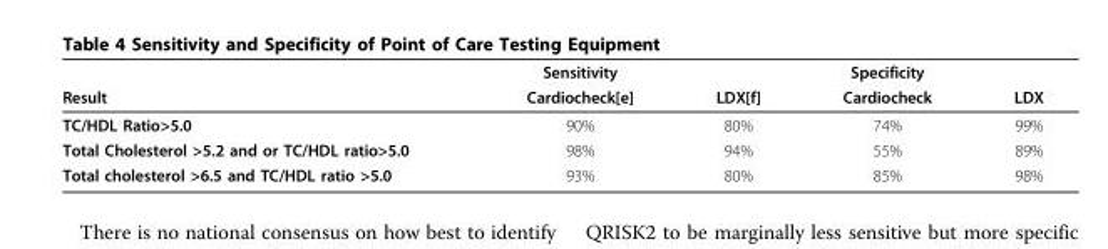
<table><thead><tr><td rowspan="2">Result</td><td rowspan="2">Sensitivity Cardiocheck[e]</td><td rowspan="2">LDX[f]</td><td rowspan="2">Specificity Cardiocheck</td><td rowspan="2">LDX</td></tr><tr></tr></thead><tbody><tr><td>TC/HDL Ratio&gt;5.0</td><td>90%</td><td>80%</td><td>74%</td><td>99%</td></tr><tr><td>Total Cholesterol &gt;5.2 and or TC/HDL ratio&gt;5.0</td><td>98%</td><td>94%</td><td>55%</td><td>89%</td></tr><tr><td>Total cholesterol &gt;6.5 and TC/HDL ratio &gt;5.0</td><td>93%</td><td>80%</td><td>85%</td><td>98%</td></tr></tbody></table>